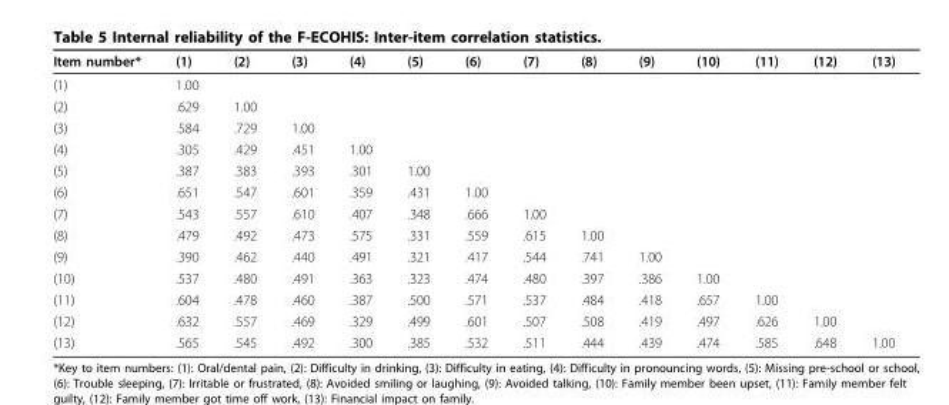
<table><thead><tr><td>Item number*</td><td>(1)</td><td>(2)</td><td>(3)</td><td>(4)</td><td>(5)</td><td>(6)</td><td>(7)</td><td>(8)</td><td>(9)</td><td>(10)</td><td>(11)</td><td>(12)</td><td>(13)</td></tr></thead><tbody><tr><td>(1)</td><td>1.00</td><td></td><td></td><td></td><td></td><td></td><td></td><td></td><td></td><td></td><td></td><td></td><td></td></tr><tr><td>(2)</td><td>.629</td><td>1.00</td><td></td><td></td><td></td><td></td><td></td><td></td><td></td><td></td><td></td><td></td><td></td></tr><tr><td>(3)</td><td>.584</td><td>.729</td><td>1.00</td><td></td><td></td><td></td><td></td><td></td><td></td><td></td><td></td><td></td><td></td></tr><tr><td>(4)</td><td>.305</td><td>.429</td><td>.451</td><td>1.00</td><td></td><td></td><td></td><td></td><td></td><td></td><td></td><td></td><td></td></tr><tr><td>(5)</td><td>.387</td><td>.383</td><td>.393</td><td>.301</td><td>1.00</td><td></td><td></td><td></td><td></td><td></td><td></td><td></td><td></td></tr><tr><td>(6)</td><td>.651</td><td>.547</td><td>.601</td><td>.359</td><td>.431</td><td>1.00</td><td></td><td></td><td></td><td></td><td></td><td></td><td></td></tr><tr><td>(7)</td><td>.543</td><td>.557</td><td>.610</td><td>.407</td><td>.348</td><td>.666</td><td>1.00</td><td></td><td></td><td></td><td></td><td></td><td></td></tr><tr><td>(8)</td><td>.479</td><td>.492</td><td>.473</td><td>.575</td><td>.331</td><td>.559</td><td>.615</td><td>1.00</td><td></td><td></td><td></td><td></td><td></td></tr><tr><td>(9)</td><td>.390</td><td>.462</td><td>.440</td><td>.491</td><td>.321</td><td>.417</td><td>.544</td><td>.741</td><td>1.00</td><td></td><td></td><td></td><td></td></tr><tr><td>(10)</td><td>.537</td><td>.480</td><td>.491</td><td>.363</td><td>.323</td><td>.474</td><td>.480</td><td>.397</td><td>.386</td><td>1.00</td><td></td><td></td><td></td></tr><tr><td>(11)</td><td>.604</td><td>.478</td><td>.460</td><td>.387</td><td>.500</td><td>.571</td><td>.537</td><td>.484</td><td>.418</td><td>.657</td><td>1.00</td><td></td><td></td></tr><tr><td>(12)</td><td>.632</td><td>.557</td><td>.469</td><td>.329</td><td>.499</td><td>.601</td><td>.507</td><td>.508</td><td>.419</td><td>.497</td><td>.626</td><td>1.00</td><td></td></tr><tr><td>(13)</td><td>.565</td><td>.545</td><td>.492</td><td>.300</td><td>.385</td><td>.532</td><td>.511</td><td>.444</td><td>.439</td><td>.474</td><td>.585</td><td>.648</td><td>1.00</td></tr></tbody></table>